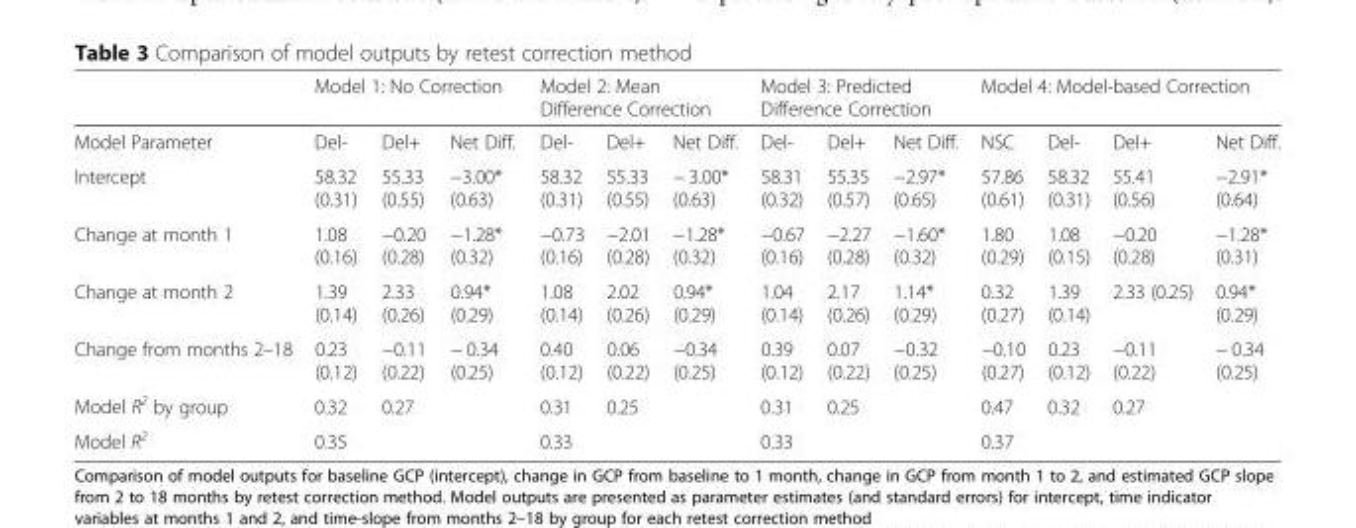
<table><thead><tr><td rowspan="2">Model Parameter</td><td colspan="3">Model 1: No Correction</td><td colspan="3">Model 2: Mean Difference Correction</td><td colspan="3">Model 3: Predicted Difference Correction</td><td colspan="4">Model 4: Model-based Correction</td></tr><tr><td>Del-</td><td>Del+</td><td>Net Diff.</td><td>Del-</td><td>Del+</td><td>Net Diff.</td><td>Del-</td><td>Del+</td><td>Net Diff.</td><td>NSC</td><td>Del-</td><td>Del+</td><td>Net Diff.</td></tr></thead><tbody><tr><td>Intercept</td><td>58.32 (0.31)</td><td>55.33 (0.55)</td><td>−3.00* (0.63)</td><td>58.32 (0.31)</td><td>55.33 (0.55)</td><td>− 3.00* (0.63)</td><td>58.31 (0.32)</td><td>55.35 (0.57)</td><td>−2.97* (0.65)</td><td>57.86 (0.61)</td><td>58.32 (0.31)</td><td>55.41 (0.56)</td><td>−2.91* (0.64)</td></tr><tr><td>Change at month 1</td><td>1.08 (0.16)</td><td>−0.20 (0.28)</td><td>−1.28* (0.32)</td><td>−0.73 (0.16)</td><td>−2.01 (0.28)</td><td>−1.28* (0.32)</td><td>−0.67 (0.16)</td><td>−2.27 (0.28)</td><td>−1.60* (0.32)</td><td>1.80 (0.29)</td><td>1.08 (0.15)</td><td>−0.20 (0.28)</td><td>−1.28* (0.31)</td></tr><tr><td>Change at month 2</td><td>1.39 (0.14)</td><td>2.33 (0.26)</td><td>0.94* (0.29)</td><td>1.08 (0.14)</td><td>2.02 (0.26)</td><td>0.94* (0.29)</td><td>1.04 (0.14)</td><td>2.17 (0.26)</td><td>1.14* (0.29)</td><td>0.32 (0.27)</td><td>1.39 (0.14)</td><td>2.33 (0.25)</td><td>0.94* (0.29)</td></tr><tr><td>Change from months 2–18</td><td>0.23 (0.12)</td><td>−0.11 (0.22)</td><td>− 0.34 (0.25)</td><td>0.40 (0.12)</td><td>0.06 (0.22)</td><td>−0.34 (0.25)</td><td>0.39 (0.12)</td><td>0.07 (0.22)</td><td>−0.32 (0.25)</td><td>−0.10 (0.27)</td><td>0.23 (0.12)</td><td>−0.11 (0.22)</td><td>− 0.34 (0.25)</td></tr><tr><td>Model R<sup>2</sup> by group</td><td>0.32</td><td>0.27</td><td></td><td>0.31</td><td>0.25</td><td></td><td>0.31</td><td>0.25</td><td></td><td>0.47</td><td>0.32</td><td>0.27</td><td></td></tr><tr><td>Model R<sup>2</sup></td><td colspan="3">0.35</td><td colspan="3">0.33</td><td colspan="3">0.33</td><td colspan="4">0.37</td></tr></tbody></table>